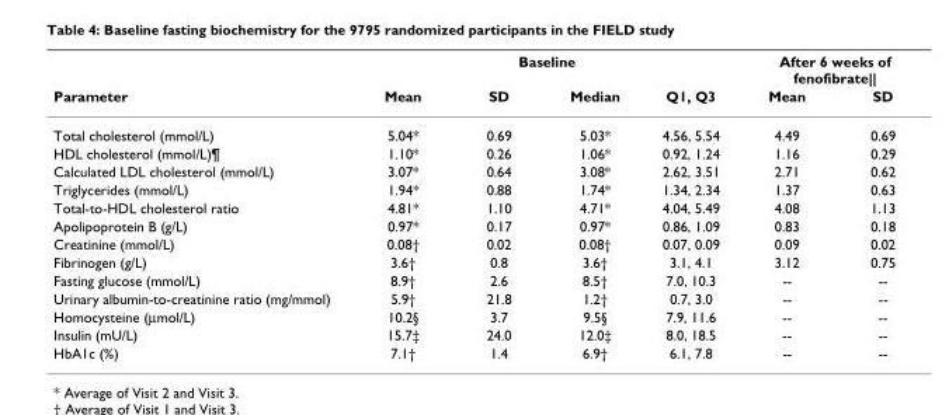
<table><thead><tr><td rowspan="2">Parameter</td><td colspan="4">Baseline</td><td colspan="2">After 6 weeks of fenofibrate||</td></tr><tr><td>Mean</td><td>SD</td><td>Median</td><td>Q1, Q3</td><td>Mean</td><td>SD</td></tr></thead><tbody><tr><td>Total cholesterol (mmol/L)</td><td>5.04*</td><td>0.69</td><td>5.03*</td><td>4.56, 5.54</td><td>4.49</td><td>0.69</td></tr><tr><td>HDL cholesterol (mmol/L)¶</td><td>1.10*</td><td>0.26</td><td>1.06*</td><td>0.92, 1.24</td><td>1.16</td><td>0.29</td></tr><tr><td>Calculated LDL cholesterol (mmol/L)</td><td>3.07*</td><td>0.64</td><td>3.08*</td><td>2.62, 3.51</td><td>2.71</td><td>0.62</td></tr><tr><td>Triglycerides (mmol/L)</td><td>1.94*</td><td>0.88</td><td>1.74*</td><td>1.34, 2.34</td><td>1.37</td><td>0.63</td></tr><tr><td>Total-to-HDL cholesterol ratio</td><td>4.81*</td><td>1.10</td><td>4.71*</td><td>4.04, 5.49</td><td>4.08</td><td>1.13</td></tr><tr><td>Apolipoprotein B (g/L)</td><td>0.97*</td><td>0.17</td><td>0.97*</td><td>0.86, 1.09</td><td>0.83</td><td>0.18</td></tr><tr><td>Creatinine (mmol/L)</td><td>0.08†</td><td>0.02</td><td>0.08†</td><td>0.07, 0.09</td><td>0.09</td><td>0.02</td></tr><tr><td>Fibrinogen (g/L)</td><td>3.6†</td><td>0.8</td><td>3.6†</td><td>3.1, 4.1</td><td>3.12</td><td>0.75</td></tr><tr><td>Fasting glucose (mmol/L)</td><td>8.9†</td><td>2.6</td><td>8.5†</td><td>7.0, 10.3</td><td>--</td><td>--</td></tr><tr><td>Urinary albumin-to-creatinine ratio (mg/mmol)</td><td>5.9†</td><td>21.8</td><td>1.2†</td><td>0.7, 3.0</td><td>--</td><td>--</td></tr><tr><td>Homocysteine (µmol/L)</td><td>10.2§</td><td>3.7</td><td>9.5§</td><td>7.9, 11.6</td><td>--</td><td>--</td></tr><tr><td>Insulin (mU/L)</td><td>15.7‡</td><td>24.0</td><td>12.0‡</td><td>8.0, 18.5</td><td>--</td><td>--</td></tr><tr><td>HbA1c (%)</td><td>7.1†</td><td>1.4</td><td>6.9†</td><td>6.1, 7.8</td><td>--</td><td>--</td></tr></tbody></table>